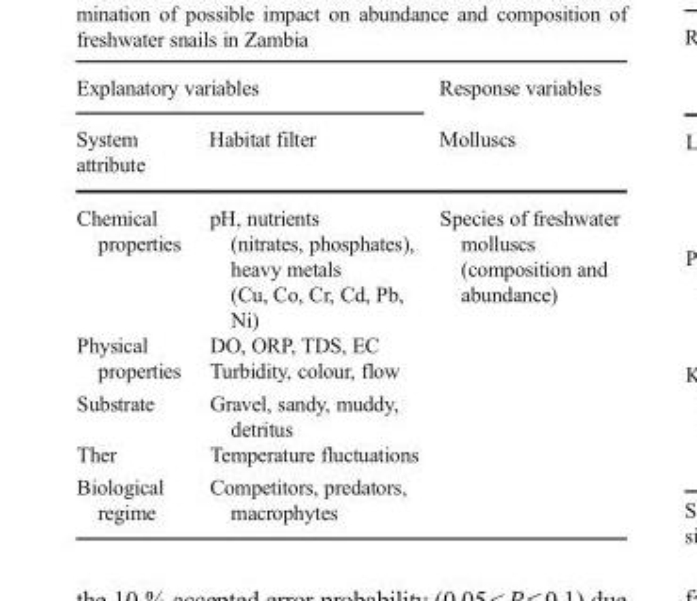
<table><thead><tr><td colspan="2">Explanatory variables</td><td rowspan="2">Response variables Molluscs</td></tr><tr><td>System attribute</td><td>Habitat filter</td></tr></thead><tbody><tr><td>Chemical properties</td><td>pH, nutrients (nitrates, phosphates), heavy metals (Cu, Co, Cr, Cd, Pb, Ni)</td><td>Species of freshwater molluscs (composition and abundance)</td></tr><tr><td rowspan="2">Physical properties</td><td>DO, ORP, TDS, EC</td><td rowspan="2"></td></tr><tr><td>Turbidity, colour, flow</td></tr><tr><td>Substrate</td><td>Gravel, sandy, muddy, detritus</td><td></td></tr><tr><td>Ther</td><td>Temperature fluctuations</td><td></td></tr><tr><td>Biological regime</td><td>Competitors, predators, macrophytes</td><td></td></tr></tbody></table>